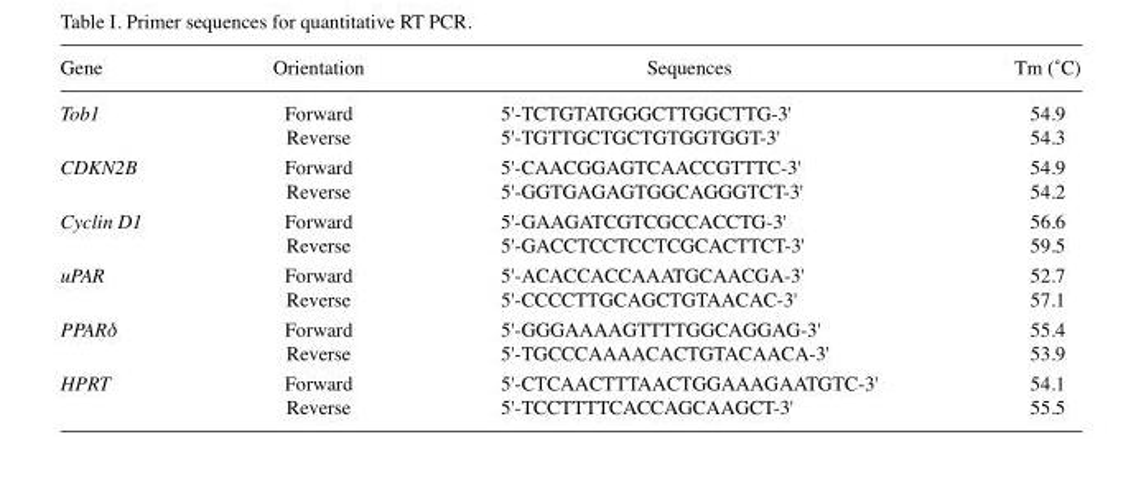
<table><thead><tr><td>Gene</td><td>Orientation</td><td>Sequences</td><td>Tm (˚C)</td></tr></thead><tbody><tr><td rowspan="2">Tob1</td><td>Forward</td><td>5&#x27;-TCTGTATGGGCTTGGCTTG-3&#x27;</td><td>54.9</td></tr><tr><td>Reverse</td><td>5&#x27;-TGTTGCTGCTGTGGTGGT-3&#x27;</td><td>54.3</td></tr><tr><td rowspan="2">CDKN2B</td><td>Forward</td><td>5&#x27;-CAACGGAGTCAACCGTTTC-3&#x27;</td><td>54.9</td></tr><tr><td>Reverse</td><td>5&#x27;-GGTGAGAGTGGCAGGGTCT-3&#x27;</td><td>54.2</td></tr><tr><td rowspan="2">Cyclin D1</td><td>Forward</td><td>5&#x27;-GAAGATCGTCGCCACCTG-3&#x27;</td><td>56.6</td></tr><tr><td>Reverse</td><td>5&#x27;-GACCTCCTCCTCGCACTTCT-3&#x27;</td><td>59.5</td></tr><tr><td rowspan="2">uPAR</td><td>Forward</td><td>5&#x27;-ACACCACCAAATGCAACGA-3&#x27;</td><td>52.7</td></tr><tr><td>Reverse</td><td>5&#x27;-CCCCTTGCAGCTGTAACAC-3&#x27;</td><td>57.1</td></tr><tr><td rowspan="2">PPARδ</td><td>Forward</td><td>5&#x27;-GGGAAAAGTTTTGGCAGGAG-3&#x27;</td><td>55.4</td></tr><tr><td>Reverse</td><td>5&#x27;-TGCCCAAAACACTGTACAACA-3&#x27;</td><td>53.9</td></tr><tr><td rowspan="2">HPRT</td><td>Forward</td><td>5&#x27;-CTCAACTTTAACTGGAAAGAATGTC-3&#x27;</td><td>54.1</td></tr><tr><td>Reverse</td><td>5&#x27;-TCCTTTTCACCAGCAAGCT-3&#x27;</td><td>55.5</td></tr></tbody></table>